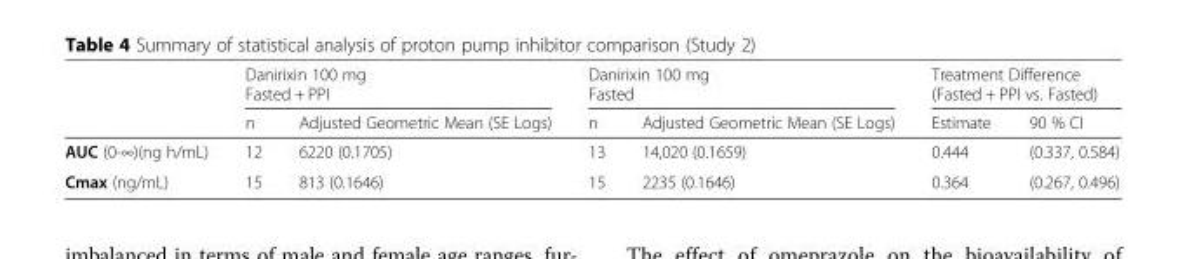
<table><thead><tr><td rowspan="2"></td><td colspan="2">Danirixin 100 mg Fasted + PPI</td><td colspan="2">Danirixin 100 mg Fasted</td><td colspan="2">Treatment Difference (Fasted + PPI vs. Fasted)</td></tr><tr><td>n</td><td>Adjusted Geometric Mean (SE Logs)</td><td>n</td><td>Adjusted Geometric Mean (SE Logs)</td><td>Estimate</td><td>90 % CI</td></tr></thead><tbody><tr><td>AUC (0-∞)(ng h/mL)</td><td>12</td><td>6220 (0.1705)</td><td>13</td><td>14,020 (0.1659)</td><td>0.444</td><td>(0.337, 0.584)</td></tr><tr><td>Cmax (ng/mL)</td><td>15</td><td>813 (0.1646)</td><td>15</td><td>2235 (0.1646)</td><td>0.364</td><td>(0.267, 0.496)</td></tr></tbody></table>